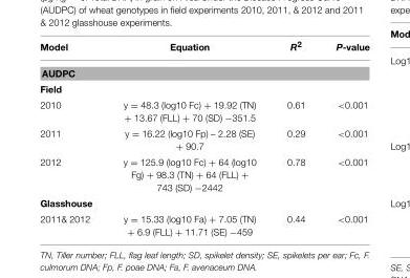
<table><thead><tr><td>Model</td><td>Equation</td><td>R<sup>2</sup></td><td>P-value</td></tr></thead><tbody><tr><td colspan="4">AUDPC</td></tr><tr><td colspan="4">Field</td></tr><tr><td>2010</td><td>y = 48.3 (log10 Fc) + 19.92 (TN) + 13.67 (FLL) + 70 (SD) −351.5</td><td>0.61</td><td>&lt;0.001</td></tr><tr><td>2011</td><td>y = 16.22 (log10 Fp) – 2.28 (SE) + 90.7</td><td>0.29</td><td>&lt;0.001</td></tr><tr><td>2012</td><td>y = 125.9 (log10 Fc) + 64 (log10 Fg) + 98.3 (TN) + 64 (FLL) + 743 (SD) −2442</td><td>0.78</td><td>&lt;0.001</td></tr><tr><td colspan="4">Glasshouse</td></tr><tr><td>2011&amp; 2012</td><td>y = 15.33 (log10 Fa) + 7.05 (TN) + 6.9 (FLL) + 11.71 (SE) −459</td><td>0.44</td><td>&lt;0.001</td></tr></tbody></table>